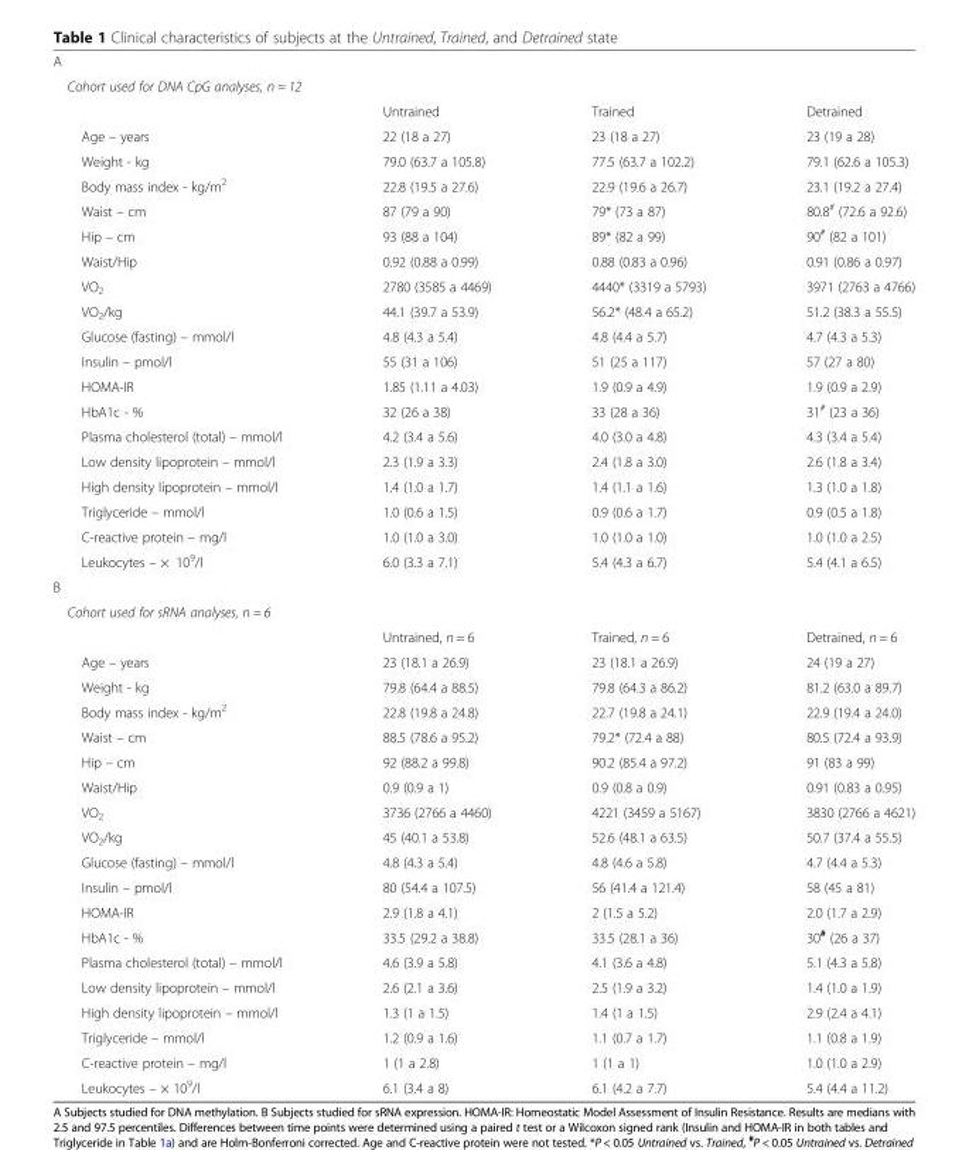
<table><tbody><tr><td colspan="4">A</td></tr><tr><td colspan="4">Cohort used for DNA CpG analyses, n = 12</td></tr><tr><td></td><td>Untrained</td><td>Trained</td><td>Detrained</td></tr><tr><td>Age – years</td><td>22 (18 a 27)</td><td>23 (18 a 27)</td><td>23 (19 a 28)</td></tr><tr><td>Weight - kg</td><td>79.0 (63.7 a 105.8)</td><td>77.5 (63.7 a 102.2)</td><td>79.1 (62.6 a 105.3)</td></tr><tr><td>Body mass index - kg/m<sup>2</sup></td><td>22.8 (19.5 a 27.6)</td><td>22.9 (19.6 a 26.7)</td><td>23.1 (19.2 a 27.4)</td></tr><tr><td>Waist – cm</td><td>87 (79 a 90)</td><td>79* (73 a 87)</td><td>80.8<sup>#</sup> (72.6 a 92.6)</td></tr><tr><td>Hip – cm</td><td>93 (88 a 104)</td><td>89* (82 a 99)</td><td>90<sup>#</sup> (82 a 101)</td></tr><tr><td>Waist/Hip</td><td>0.92 (0.88 a 0.99)</td><td>0.88 (0.83 a 0.96)</td><td>0.91 (0.86 a 0.97)</td></tr><tr><td>VO<sub>2</sub></td><td>2780 (3585 a 4469)</td><td>4440* (3319 a 5793)</td><td>3971 (2763 a 4766)</td></tr><tr><td>VO<sub>2</sub>/kg</td><td>44.1 (39.7 a 53.9)</td><td>56.2* (48.4 a 65.2)</td><td>51.2 (38.3 a 55.5)</td></tr><tr><td>Glucose (fasting) – mmol/l</td><td>4.8 (4.3 a 5.4)</td><td>4.8 (4.4 a 5.7)</td><td>4.7 (4.3 a 5.3)</td></tr><tr><td>Insulin – pmol/l</td><td>55 (31 a 106)</td><td>51 (25 a 117)</td><td>57 (27 a 80)</td></tr><tr><td>HOMA-IR</td><td>1.85 (1.11 a 4.03)</td><td>1.9 (0.9 a 4.9)</td><td>1.9 (0.9 a 2.9)</td></tr><tr><td>HbA1c - %</td><td>32 (26 a 38)</td><td>33 (28 a 36)</td><td>31<sup>#</sup> (23 a 36)</td></tr><tr><td>Plasma cholesterol (total) – mmol/l</td><td>4.2 (3.4 a 5.6)</td><td>4.0 (3.0 a 4.8)</td><td>4.3 (3.4 a 5.4)</td></tr><tr><td>Low density lipoprotein – mmol/l</td><td>2.3 (1.9 a 3.3)</td><td>2.4 (1.8 a 3.0)</td><td>2.6 (1.8 a 3.4)</td></tr><tr><td>High density lipoprotein – mmol/l</td><td>1.4 (1.0 a 1.7)</td><td>1.4 (1.1 a 1.6)</td><td>1.3 (1.0 a 1.8)</td></tr><tr><td>Triglyceride – mmol/l</td><td>1.0 (0.6 a 1.5)</td><td>0.9 (0.6 a 1.7)</td><td>0.9 (0.5 a 1.8)</td></tr><tr><td>C-reactive protein – mg/l</td><td>1.0 (1.0 a 3.0)</td><td>1.0 (1.0 a 1.0)</td><td>1.0 (1.0 a 2.5)</td></tr><tr><td>Leukocytes – × 10<sup>9</sup>/l</td><td>6.0 (3.3 a 7.1)</td><td>5.4 (4.3 a 6.7)</td><td>5.4 (4.1 a 6.5)</td></tr><tr><td colspan="4">B</td></tr><tr><td colspan="4">Cohort used for sRNA analyses, n = 6</td></tr><tr><td></td><td>Untrained, n = 6</td><td>Trained, n = 6</td><td>Detrained, n = 6</td></tr><tr><td>Age – years</td><td>23 (18.1 a 26.9)</td><td>23 (18.1 a 26.9)</td><td>24 (19 a 27)</td></tr><tr><td>Weight - kg</td><td>79.8 (64.4 a 88.5)</td><td>79.8 (64.3 a 86.2)</td><td>81.2 (63.0 a 89.7)</td></tr><tr><td>Body mass index - kg/m<sup>2</sup></td><td>22.8 (19.8 a 24.8)</td><td>22.7 (19.8 a 24.1)</td><td>22.9 (19.4 a 24.0)</td></tr><tr><td>Waist – cm</td><td>88.5 (78.6 a 95.2)</td><td>79.2* (72.4 a 88)</td><td>80.5 (72.4 a 93.9)</td></tr><tr><td>Hip – cm</td><td>92 (88.2 a 99.8)</td><td>90.2 (85.4 a 97.2)</td><td>91 (83 a 99)</td></tr><tr><td>Waist/Hip</td><td>0.9 (0.9 a 1)</td><td>0.9 (0.8 a 0.9)</td><td>0.91 (0.83 a 0.95)</td></tr><tr><td>VO<sub>2</sub></td><td>3736 (2766 a 4460)</td><td>4221 (3459 a 5167)</td><td>3830 (2766 a 4621)</td></tr><tr><td>VO<sub>2</sub>/kg</td><td>45 (40.1 a 53.8)</td><td>52.6 (48.1 a 63.5)</td><td>50.7 (37.4 a 55.5)</td></tr><tr><td>Glucose (fasting) – mmol/l</td><td>4.8 (4.3 a 5.4)</td><td>4.8 (4.6 a 5.8)</td><td>4.7 (4.4 a 5.3)</td></tr><tr><td>Insulin – pmol/l</td><td>80 (54.4 a 107.5)</td><td>56 (41.4 a 121.4)</td><td>58 (45 a 81)</td></tr><tr><td>HOMA-IR</td><td>2.9 (1.8 a 4.1)</td><td>2 (1.5 a 5.2)</td><td>2.0 (1.7 a 2.9)</td></tr><tr><td>HbA1c - %</td><td>33.5 (29.2 a 38.8)</td><td>33.5 (28.1 a 36)</td><td>30<sup>#</sup> (26 a 37)</td></tr><tr><td>Plasma cholesterol (total) – mmol/l</td><td>4.6 (3.9 a 5.8)</td><td>4.1 (3.6 a 4.8)</td><td>5.1 (4.3 a 5.8)</td></tr><tr><td>Low density lipoprotein – mmol/l</td><td>2.6 (2.1 a 3.6)</td><td>2.5 (1.9 a 3.2)</td><td>1.4 (1.0 a 1.9)</td></tr><tr><td>High density lipoprotein – mmol/l</td><td>1.3 (1 a 1.5)</td><td>1.4 (1 a 1.5)</td><td>2.9 (2.4 a 4.1)</td></tr><tr><td>Triglyceride – mmol/l</td><td>1.2 (0.9 a 1.6)</td><td>1.1 (0.7 a 1.7)</td><td>1.1 (0.8 a 1.9)</td></tr><tr><td>C-reactive protein – mg/l</td><td>1 (1 a 2.8)</td><td>1 (1 a 1)</td><td>1.0 (1.0 a 2.9)</td></tr><tr><td>Leukocytes – × 10<sup>9</sup>/l</td><td>6.1 (3.4 a 8)</td><td>6.1 (4.2 a 7.7)</td><td>5.4 (4.4 a 11.2)</td></tr></tbody></table>